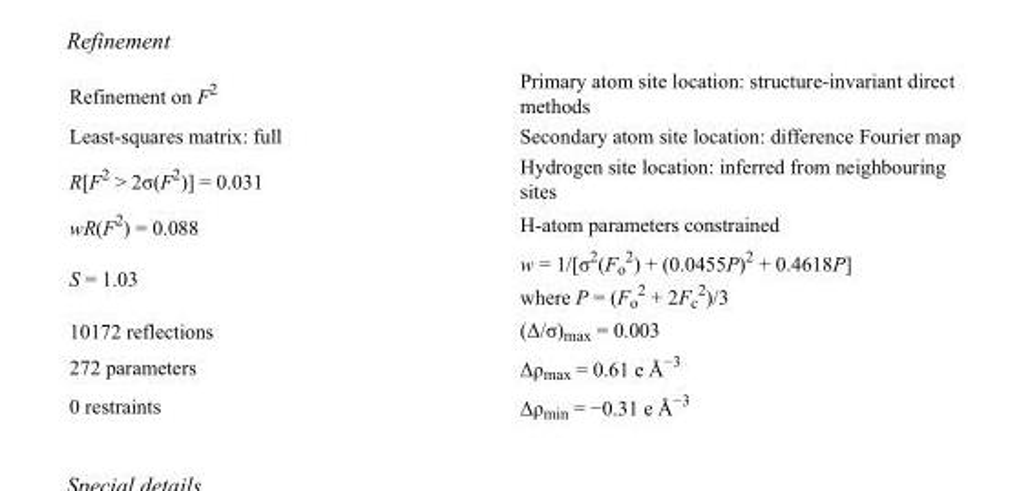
<table><tbody><tr><td>Refinement on F<sup>2</sup></td><td>Primary atom site location: structure-invariant direct methods</td></tr><tr><td>Least-squares matrix: full</td><td>Secondary atom site location: difference Fourier map</td></tr><tr><td>R[F<sup>2</sup> &gt; 2σ(F<sup>2</sup>)] = 0.031</td><td>Hydrogen site location: inferred from neighbouring sites</td></tr><tr><td>wR(F<sup>2</sup>) = 0.088</td><td>H-atom parameters constrained</td></tr><tr><td>S = 1.03</td><td>w = 1/[σ<sup>2</sup>(F<sub>o</sub> <sup>2</sup>) + (0.0455P)<sup>2</sup> + 0.4618P] where P = (F<sub>o</sub> <sup>2</sup> + 2F<sub>c</sub> <sup>2</sup>)/3</td></tr><tr><td>10172 reflections</td><td>(Δ/σ)<sub>max</sub> = 0.003</td></tr><tr><td>272 parameters</td><td>Δρ<sub>max</sub> = 0.61 e Å<sup>−3</sup></td></tr><tr><td>0 restraints</td><td>Δρ<sub>min</sub> = −0.31 e Å<sup>−3</sup></td></tr></tbody></table>